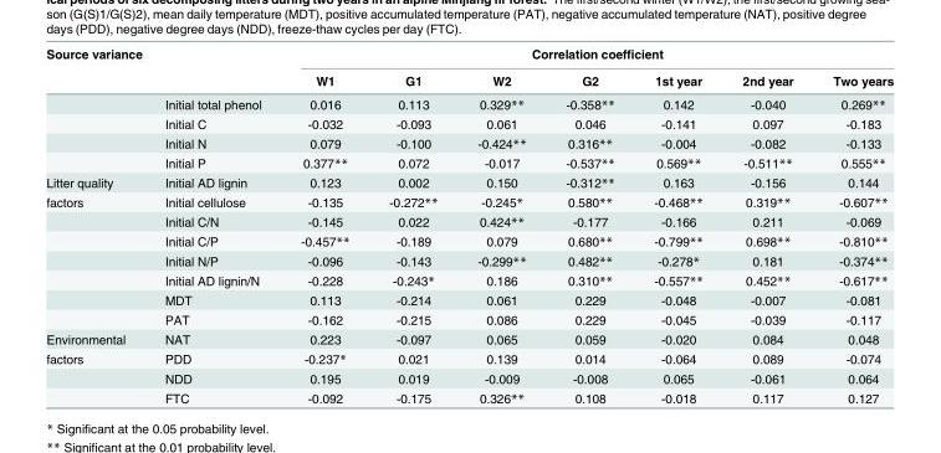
<table><thead><tr><td colspan="2">Source variance</td><td colspan="7">Correlation coefficient</td></tr><tr><td></td><td></td><td>W1</td><td>G1</td><td>W2</td><td>G2</td><td>1st year</td><td>2nd year</td><td>Two years</td></tr></thead><tbody><tr><td></td><td>Initial total phenol</td><td>0.016</td><td>0.113</td><td>0.329**</td><td>-0.358**</td><td>0.142</td><td>-0.040</td><td>0.269**</td></tr><tr><td></td><td>Initial C</td><td>-0.032</td><td>-0.093</td><td>0.061</td><td>0.046</td><td>-0.141</td><td>0.097</td><td>-0.183</td></tr><tr><td></td><td>Initial N</td><td>0.079</td><td>-0.100</td><td>-0.424**</td><td>0.316**</td><td>-0.004</td><td>-0.082</td><td>-0.133</td></tr><tr><td></td><td>Initial P</td><td>0.377**</td><td>0.072</td><td>-0.017</td><td>-0.537**</td><td>0.569**</td><td>-0.511**</td><td>0.555**</td></tr><tr><td>Litter quality</td><td>Initial AD lignin</td><td>0.123</td><td>0.002</td><td>0.150</td><td>-0.312**</td><td>0.163</td><td>-0.156</td><td>0.144</td></tr><tr><td rowspan="7">factors</td><td>Initial cellulose</td><td>-0.135</td><td>-0.272**</td><td>-0.245*</td><td>0.580**</td><td>-0.468**</td><td>0.319**</td><td>-0.607**</td></tr><tr><td>Initial C/N</td><td>-0.145</td><td>0.022</td><td>0.424**</td><td>-0.177</td><td>-0.166</td><td>0.211</td><td>-0.069</td></tr><tr><td>Initial C/P</td><td>-0.457**</td><td>-0.189</td><td>0.079</td><td>0.680**</td><td>-0.799**</td><td>0.698**</td><td>-0.810**</td></tr><tr><td>Initial N/P</td><td>-0.096</td><td>-0.143</td><td>-0.299**</td><td>0.482**</td><td>-0.278*</td><td>0.181</td><td>-0.374**</td></tr><tr><td>Initial AD lignin/N</td><td>-0.228</td><td>-0.243*</td><td>0.186</td><td>0.310**</td><td>-0.557**</td><td>0.452**</td><td>-0.617**</td></tr><tr><td>MDT</td><td>0.113</td><td>-0.214</td><td>0.061</td><td>0.229</td><td>-0.048</td><td>-0.007</td><td>-0.081</td></tr><tr><td>PAT</td><td>-0.162</td><td>-0.215</td><td>0.086</td><td>0.229</td><td>-0.045</td><td>-0.039</td><td>-0.117</td></tr><tr><td>Environmental</td><td>NAT</td><td>0.223</td><td>-0.097</td><td>0.065</td><td>0.059</td><td>-0.020</td><td>0.084</td><td>0.048</td></tr><tr><td rowspan="3">factors</td><td>PDD</td><td>-0.237*</td><td>0.021</td><td>0.139</td><td>0.014</td><td>-0.064</td><td>0.089</td><td>-0.074</td></tr><tr><td>NDD</td><td>0.195</td><td>0.019</td><td>-0.009</td><td>-0.008</td><td>0.065</td><td>-0.061</td><td>0.064</td></tr><tr><td>FTC</td><td>-0.092</td><td>-0.175</td><td>0.326**</td><td>0.108</td><td>-0.018</td><td>0.117</td><td>0.127</td></tr></tbody></table>